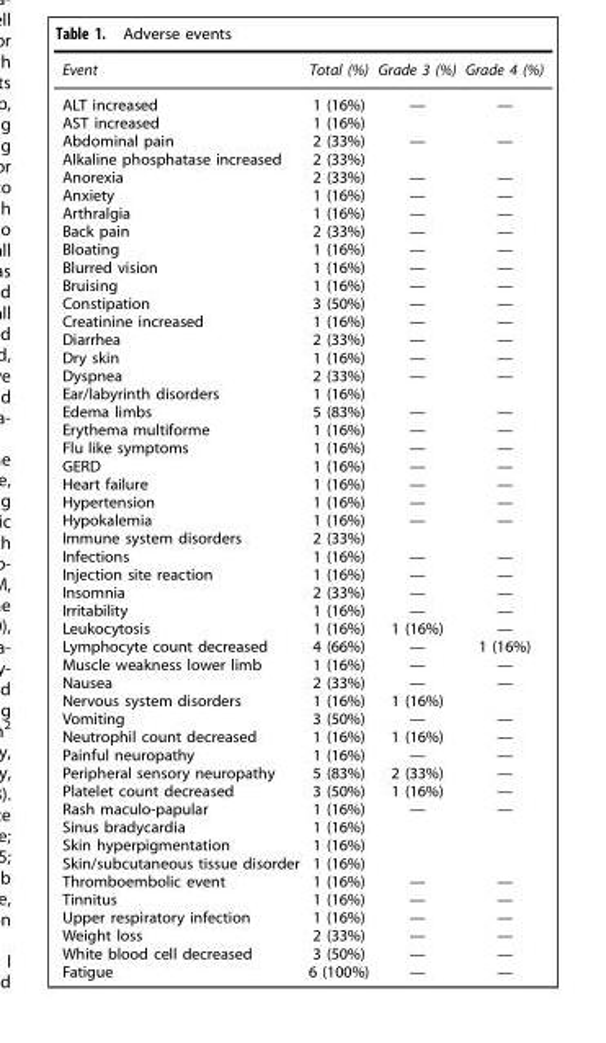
<table><thead><tr><td>Event</td><td>Total (%)</td><td>Grade 3 (%)</td><td>Grade 4 (%)</td></tr></thead><tbody><tr><td>ALT increased</td><td>1 (16%)</td><td>—</td><td>—</td></tr><tr><td>AST increased</td><td>1 (16%)</td><td></td><td></td></tr><tr><td>Abdominal pain</td><td>2 (33%)</td><td>—</td><td>—</td></tr><tr><td>Alkaline phosphatase increased</td><td>2 (33%)</td><td></td><td></td></tr><tr><td>Anorexia</td><td>2 (33%)</td><td>—</td><td>—</td></tr><tr><td>Anxiety</td><td>1 (16%)</td><td>—</td><td>—</td></tr><tr><td>Arthralgia</td><td>1 (16%)</td><td>—</td><td>—</td></tr><tr><td>Back pain</td><td>2 (33%)</td><td>—</td><td>—</td></tr><tr><td>Bloating</td><td>1 (16%)</td><td>—</td><td>—</td></tr><tr><td>Blurred vision</td><td>1 (16%)</td><td>—</td><td>—</td></tr><tr><td>Bruising</td><td>1 (16%)</td><td>—</td><td>—</td></tr><tr><td>Constipation</td><td>3 (50%)</td><td>—</td><td>—</td></tr><tr><td>Creatinine increased</td><td>1 (16%)</td><td>—</td><td>—</td></tr><tr><td>Diarrhea</td><td>2 (33%)</td><td>—</td><td>—</td></tr><tr><td>Dry skin</td><td>1 (16%)</td><td>—</td><td>—</td></tr><tr><td>Dyspnea</td><td>2 (33%)</td><td>—</td><td>—</td></tr><tr><td>Ear/labyrinth disorders</td><td>1 (16%)</td><td></td><td></td></tr><tr><td>Edema limbs</td><td>5 (83%)</td><td>—</td><td>—</td></tr><tr><td>Erythema multiforme</td><td>1 (16%)</td><td>—</td><td>—</td></tr><tr><td>Flu like symptoms</td><td>1 (16%)</td><td>—</td><td>—</td></tr><tr><td>GERD</td><td>1 (16%)</td><td>—</td><td>—</td></tr><tr><td>Heart failure</td><td>1 (16%)</td><td>—</td><td>—</td></tr><tr><td>Hypertension</td><td>1 (16%)</td><td>—</td><td>—</td></tr><tr><td>Hypokalemia</td><td>1 (16%)</td><td>—</td><td>—</td></tr><tr><td>Immune system disorders</td><td>2 (33%)</td><td></td><td></td></tr><tr><td>Infections</td><td>1 (16%)</td><td>—</td><td>—</td></tr><tr><td>Injection site reaction</td><td>1 (16%)</td><td>—</td><td>—</td></tr><tr><td>Insomnia</td><td>2 (33%)</td><td>—</td><td>—</td></tr><tr><td>Irritability</td><td>1 (16%)</td><td>—</td><td>—</td></tr><tr><td>Leukocytosis</td><td>1 (16%)</td><td>1 (16%)</td><td>—</td></tr><tr><td>Lymphocyte count decreased</td><td>4 (66%)</td><td>—</td><td>1 (16%)</td></tr><tr><td>Muscle weakness lower limb</td><td>1 (16%)</td><td>—</td><td>—</td></tr><tr><td>Nausea</td><td>2 (33%)</td><td>—</td><td>—</td></tr><tr><td>Nervous system disorders</td><td>1 (16%)</td><td>1 (16%)</td><td></td></tr><tr><td>Vomiting</td><td>3 (50%)</td><td>—</td><td>—</td></tr><tr><td>Neutrophil count decreased</td><td>1 (16%)</td><td>1 (16%)</td><td>—</td></tr><tr><td>Painful neuropathy</td><td>1 (16%)</td><td>—</td><td>—</td></tr><tr><td>Peripheral sensory neuropathy</td><td>5 (83%)</td><td>2 (33%)</td><td>—</td></tr><tr><td>Platelet count decreased</td><td>3 (50%)</td><td>1 (16%)</td><td>—</td></tr><tr><td>Rash maculo-papular</td><td>1 (16%)</td><td>—</td><td>—</td></tr><tr><td>Sinus bradycardia</td><td>1 (16%)</td><td></td><td></td></tr><tr><td>Skin hyperpigmentation</td><td>1 (16%)</td><td></td><td></td></tr><tr><td>Skin/subcutaneous tissue disorder</td><td>1 (16%)</td><td></td><td></td></tr><tr><td>Thromboembolic event</td><td>1 (16%)</td><td>—</td><td>—</td></tr><tr><td>Tinnitus</td><td>1 (16%)</td><td>—</td><td>—</td></tr><tr><td>Upper respiratory infection</td><td>1 (16%)</td><td>—</td><td>—</td></tr><tr><td>Weight loss</td><td>2 (33%)</td><td>—</td><td>—</td></tr><tr><td>White blood cell decreased</td><td>3 (50%)</td><td>—</td><td>—</td></tr><tr><td>Fatigue</td><td>6 (100%)</td><td>—</td><td>—</td></tr></tbody></table>